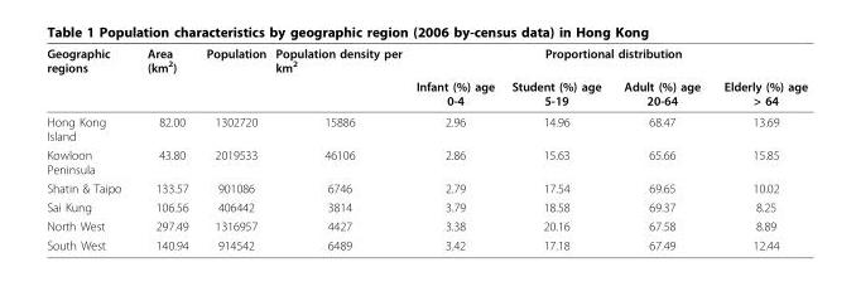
<table><thead><tr><td rowspan="2">Geographic regions</td><td rowspan="2">Area (km<sup>2</sup>)</td><td rowspan="2">Population</td><td rowspan="2">Population density per km<sup>2</sup></td><td colspan="4">Proportional distribution</td></tr><tr><td>Infant (%) age 0-4</td><td>Student (%) age 5-19</td><td>Adult (%) age 20-64</td><td>Elderly (%) age &gt; 64</td></tr></thead><tbody><tr><td>Hong Kong Island</td><td>82.00</td><td>1302720</td><td>15886</td><td>2.96</td><td>14.96</td><td>68.47</td><td>13.69</td></tr><tr><td>Kowloon Peninsula</td><td>43.80</td><td>2019533</td><td>46106</td><td>2.86</td><td>15.63</td><td>65.66</td><td>15.85</td></tr><tr><td>Shatin &amp; Taipo</td><td>133.57</td><td>901086</td><td>6746</td><td>2.79</td><td>17.54</td><td>69.65</td><td>10.02</td></tr><tr><td>Sai Kung</td><td>106.56</td><td>406442</td><td>3814</td><td>3.79</td><td>18.58</td><td>69.37</td><td>8.25</td></tr><tr><td>North West</td><td>297.49</td><td>1316957</td><td>4427</td><td>3.38</td><td>20.16</td><td>67.58</td><td>8.89</td></tr><tr><td>South West</td><td>140.94</td><td>914542</td><td>6489</td><td>3.42</td><td>17.18</td><td>67.49</td><td>12.44</td></tr></tbody></table>